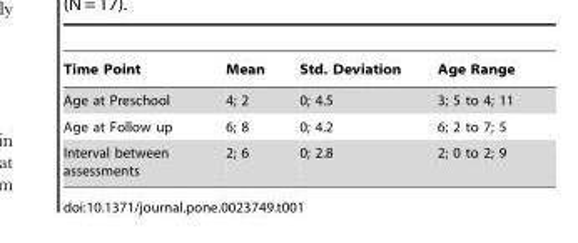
<table><thead><tr><td>Time Point</td><td>Mean</td><td>Std. Deviation</td><td>Age Range</td></tr></thead><tbody><tr><td>Age at Preschool</td><td>4; 2</td><td>0; 4.5</td><td>3; 5 to 4; 11</td></tr><tr><td>Age at Follow up</td><td>6; 8</td><td>0; 4.2</td><td>6; 2 to 7; 5</td></tr><tr><td>Interval between assessments</td><td>2; 6</td><td>0; 2.8</td><td>2; 0 to 2; 9</td></tr></tbody></table>